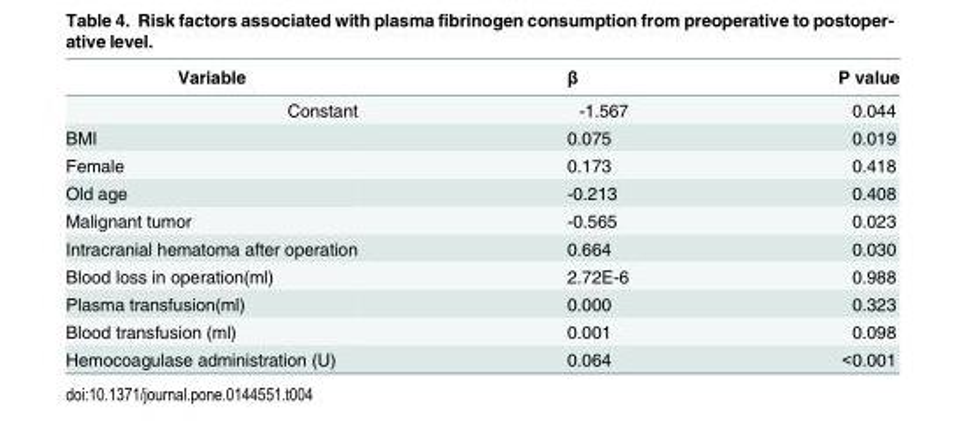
<table><thead><tr><td>Variable</td><td>β</td><td>P value</td></tr></thead><tbody><tr><td>Constant</td><td>-1.567</td><td>0.044</td></tr><tr><td>BMI</td><td>0.075</td><td>0.019</td></tr><tr><td>Female</td><td>0.173</td><td>0.418</td></tr><tr><td>Old age</td><td>-0.213</td><td>0.408</td></tr><tr><td>Malignant tumor</td><td>-0.565</td><td>0.023</td></tr><tr><td>Intracranial hematoma after operation</td><td>0.664</td><td>0.030</td></tr><tr><td>Blood loss in operation(ml)</td><td>2.72E-6</td><td>0.988</td></tr><tr><td>Plasma transfusion(ml)</td><td>0.000</td><td>0.323</td></tr><tr><td>Blood transfusion (ml)</td><td>0.001</td><td>0.098</td></tr><tr><td>Hemocoagulase administration (U)</td><td>0.064</td><td>&lt;0.001</td></tr></tbody></table>